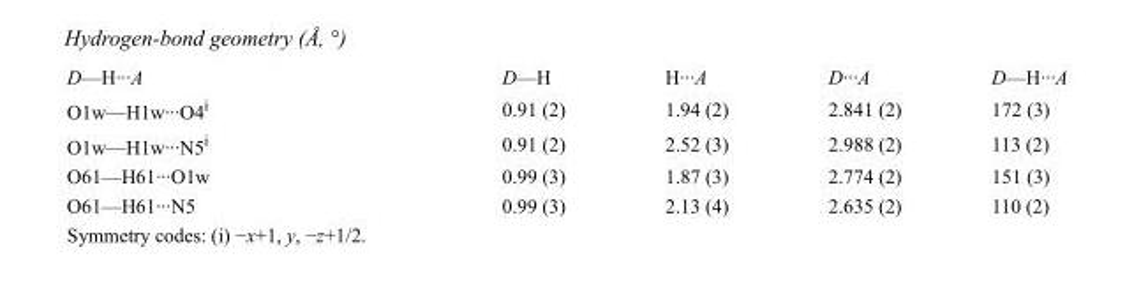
<table><tbody><tr><td>D—H···A</td><td>D—H</td><td>H···A</td><td>D···A</td><td>D—H···A</td></tr><tr><td>O1w—H1w···O4<sup>i</sup></td><td>0.91 (2)</td><td>1.94 (2)</td><td>2.841 (2)</td><td>172 (3)</td></tr><tr><td>O1w—H1w···N5<sup>i</sup></td><td>0.91 (2)</td><td>2.52 (3)</td><td>2.988 (2)</td><td>113 (2)</td></tr><tr><td>O61—H61···O1w</td><td>0.99 (3)</td><td>1.87 (3)</td><td>2.774 (2)</td><td>151 (3)</td></tr><tr><td>O61—H61···N5</td><td>0.99 (3)</td><td>2.13 (4)</td><td>2.635 (2)</td><td>110 (2)</td></tr></tbody></table>